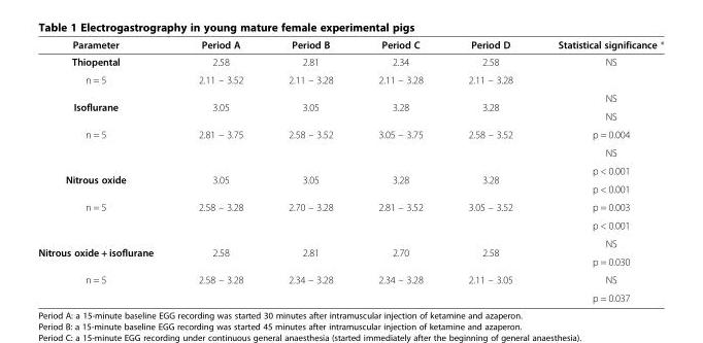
<table><thead><tr><td>Parameter</td><td>Period A</td><td>Period B</td><td>Period C</td><td>Period D</td><td>Statistical significance *</td></tr></thead><tbody><tr><td>Thiopental</td><td>2.58</td><td>2.81</td><td>2.34</td><td>2.58</td><td rowspan="2">NS</td></tr><tr><td>n = 5</td><td>2.11 – 3.52</td><td>2.11 – 3.28</td><td>2.11 – 3.28</td><td>2.11 – 3.28</td></tr><tr><td rowspan="2">Isoflurane</td><td rowspan="2">3.05</td><td rowspan="2">3.05</td><td rowspan="2">3.28</td><td rowspan="2">3.28</td><td>NS</td></tr><tr><td>NS</td></tr><tr><td rowspan="2">n = 5</td><td rowspan="2">2.81 – 3.75</td><td rowspan="2">2.58 – 3.52</td><td rowspan="2">3.05 – 3.75</td><td rowspan="2">2.58 – 3.52</td><td>p = 0.004</td></tr><tr><td>NS</td></tr><tr><td rowspan="2">Nitrous oxide</td><td rowspan="2">3.05</td><td rowspan="2">3.05</td><td rowspan="2">3.28</td><td rowspan="2">3.28</td><td>p &lt; 0.001</td></tr><tr><td>p &lt; 0.001</td></tr><tr><td rowspan="2">n = 5</td><td rowspan="2">2.58 – 3.28</td><td rowspan="2">2.70 – 3.28</td><td rowspan="2">2.81 – 3.52</td><td rowspan="2">3.05 – 3.52</td><td>p = 0.003</td></tr><tr><td>p &lt; 0.001</td></tr><tr><td rowspan="2">Nitrous oxide + isoflurane</td><td rowspan="2">2.58</td><td rowspan="2">2.81</td><td rowspan="2">2.70</td><td rowspan="2">2.58</td><td>NS</td></tr><tr><td>p = 0.030</td></tr><tr><td rowspan="2">n = 5</td><td>2.58 – 3.28</td><td>2.34 – 3.28</td><td>2.34 – 3.28</td><td>2.11 – 3.05</td><td>NS</td></tr><tr><td></td><td></td><td></td><td></td><td>p = 0.037</td></tr></tbody></table>